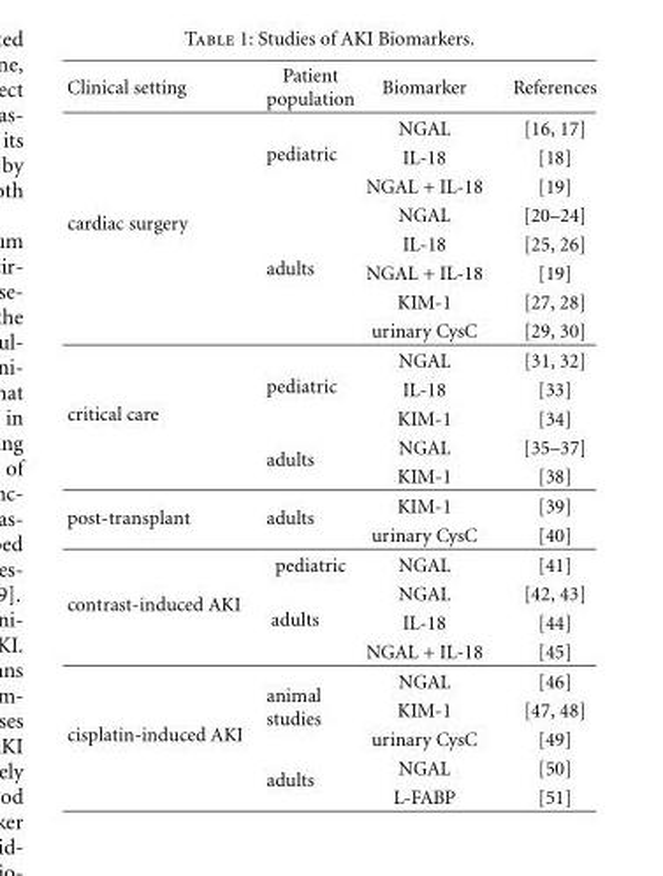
<table><thead><tr><td>Clinical setting</td><td>Patient population</td><td>Biomarker</td><td>References</td></tr></thead><tbody><tr><td rowspan="8">cardiac surgery</td><td rowspan="3">pediatric</td><td>NGAL</td><td>[16, 17]</td></tr><tr><td>IL-18</td><td>[18]</td></tr><tr><td>NGAL + IL-18</td><td>[19]</td></tr><tr><td rowspan="5">adults</td><td>NGAL</td><td>[20–24]</td></tr><tr><td>IL-18</td><td>[25, 26]</td></tr><tr><td>NGAL + IL-18</td><td>[19]</td></tr><tr><td>KIM-1</td><td>[27, 28]</td></tr><tr><td>urinary CysC</td><td>[29, 30]</td></tr><tr><td rowspan="5">critical care</td><td rowspan="3">pediatric</td><td>NGAL</td><td>[31, 32]</td></tr><tr><td>IL-18</td><td>[33]</td></tr><tr><td>KIM-1</td><td>[34]</td></tr><tr><td rowspan="2">adults</td><td>NGAL</td><td>[35–37]</td></tr><tr><td>KIM-1</td><td>[38]</td></tr><tr><td rowspan="2">post-transplant</td><td rowspan="2">adults</td><td>KIM-1</td><td>[39]</td></tr><tr><td>urinary CysC</td><td>[40]</td></tr><tr><td rowspan="4">contrast-induced AKI</td><td>pediatric</td><td>NGAL</td><td>[41]</td></tr><tr><td rowspan="3">adults</td><td>NGAL</td><td>[42, 43]</td></tr><tr><td>IL-18</td><td>[44]</td></tr><tr><td>NGAL + IL-18</td><td>[45]</td></tr><tr><td rowspan="5">cisplatin-induced AKI</td><td rowspan="3">animal studies</td><td>NGAL</td><td>[46]</td></tr><tr><td>KIM-1</td><td>[47, 48]</td></tr><tr><td>urinary CysC</td><td>[49]</td></tr><tr><td rowspan="2">adults</td><td>NGAL</td><td>[50]</td></tr><tr><td>L-FABP</td><td>[51]</td></tr></tbody></table>